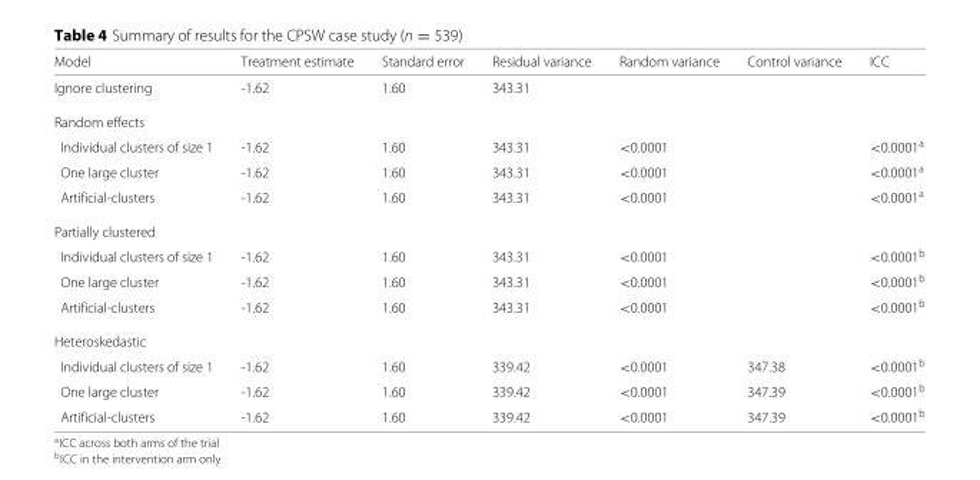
<table><thead><tr><td>Model</td><td>Treatment estimate</td><td>Standard error</td><td>Residual variance</td><td>Random variance</td><td>Control variance</td><td>ICC</td></tr></thead><tbody><tr><td>Ignore clustering</td><td>-1.62</td><td>1.60</td><td>343.31</td><td></td><td></td><td></td></tr><tr><td colspan="7">Random effects</td></tr><tr><td>Individual clusters of size 1</td><td>-1.62</td><td>1.60</td><td>343.31</td><td>&lt;0.0001</td><td></td><td>&lt;0.0001<sup>a</sup></td></tr><tr><td>One large cluster</td><td>-1.62</td><td>1.60</td><td>343.31</td><td>&lt;0.0001</td><td></td><td>&lt;0.0001<sup>a</sup></td></tr><tr><td>Artificial-clusters</td><td>-1.62</td><td>1.60</td><td>343.31</td><td>&lt;0.0001</td><td></td><td>&lt;0.0001<sup>a</sup></td></tr><tr><td colspan="7">Partially clustered</td></tr><tr><td>Individual clusters of size 1</td><td>-1.62</td><td>1.60</td><td>343.31</td><td>&lt;0.0001</td><td></td><td>&lt;0.0001<sup>b</sup></td></tr><tr><td>One large cluster</td><td>-1.62</td><td>1.60</td><td>343.31</td><td>&lt;0.0001</td><td></td><td>&lt;0.0001<sup>b</sup></td></tr><tr><td>Artificial-clusters</td><td>-1.62</td><td>1.60</td><td>343.31</td><td>&lt;0.0001</td><td></td><td>&lt;0.0001<sup>b</sup></td></tr><tr><td colspan="7">Heteroskedastic</td></tr><tr><td>Individual clusters of size 1</td><td>-1.62</td><td>1.60</td><td>339.42</td><td>&lt;0.0001</td><td>347.38</td><td>&lt;0.0001<sup>b</sup></td></tr><tr><td>One large cluster</td><td>-1.62</td><td>1.60</td><td>339.42</td><td>&lt;0.0001</td><td>347.39</td><td>&lt;0.0001<sup>b</sup></td></tr><tr><td>Artificial-clusters</td><td>-1.62</td><td>1.60</td><td>339.42</td><td>&lt;0.0001</td><td>347.39</td><td>&lt;0.0001<sup>b</sup></td></tr></tbody></table>